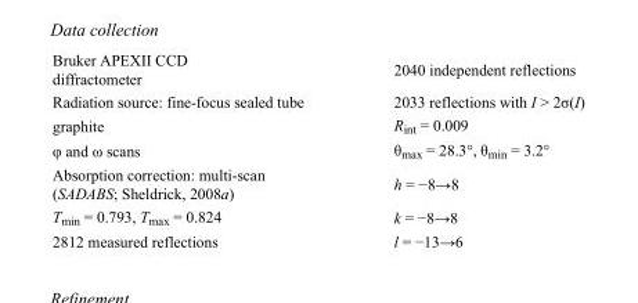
<table><tbody><tr><td>Bruker APEXII CCD diffractometer</td><td>2040 independent reflections</td></tr><tr><td>Radiation source: fine-focus sealed tube</td><td>2033 reflections with I &gt; 2σ(I)</td></tr><tr><td>graphite</td><td>R<sub>int</sub> = 0.009</td></tr><tr><td>φ and ω scans</td><td>θ<sub>max</sub> = 28.3°, θ<sub>min</sub> = 3.2°</td></tr><tr><td>Absorption correction: multi-scan (SADABS; Sheldrick, 2008a)</td><td>h = −8→8</td></tr><tr><td>T<sub>min</sub> = 0.793, T<sub>max</sub> = 0.824</td><td>k = −8→8</td></tr><tr><td>2812 measured reflections</td><td>l = −13→6</td></tr></tbody></table>